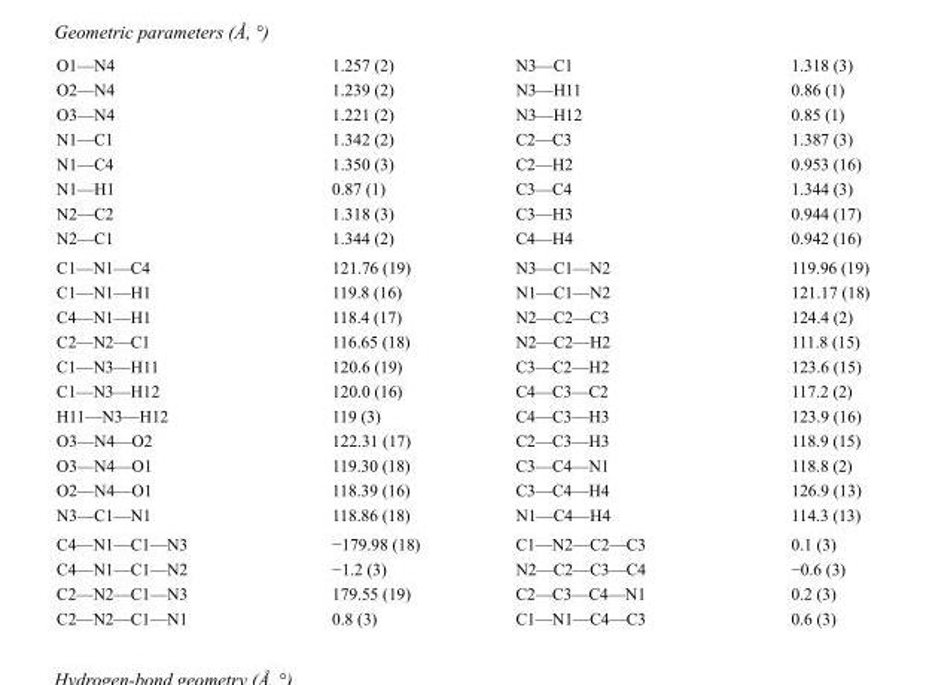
<table><tbody><tr><td>O1—N4</td><td>1.257 (2)</td><td>N3—C1</td><td>1.318 (3)</td></tr><tr><td>O2—N4</td><td>1.239 (2)</td><td>N3—H11</td><td>0.86 (1)</td></tr><tr><td>O3—N4</td><td>1.221 (2)</td><td>N3—H12</td><td>0.85 (1)</td></tr><tr><td>N1—C1</td><td>1.342 (2)</td><td>C2—C3</td><td>1.387 (3)</td></tr><tr><td>N1—C4</td><td>1.350 (3)</td><td>C2—H2</td><td>0.953 (16)</td></tr><tr><td>N1—H1</td><td>0.87 (1)</td><td>C3—C4</td><td>1.344 (3)</td></tr><tr><td>N2—C2</td><td>1.318 (3)</td><td>C3—H3</td><td>0.944 (17)</td></tr><tr><td>N2—C1</td><td>1.344 (2)</td><td>C4—H4</td><td>0.942 (16)</td></tr><tr><td>C1—N1—C4</td><td>121.76 (19)</td><td>N3—C1—N2</td><td>119.96 (19)</td></tr><tr><td>C1—N1—H1</td><td>119.8 (16)</td><td>N1—C1—N2</td><td>121.17 (18)</td></tr><tr><td>C4—N1—H1</td><td>118.4 (17)</td><td>N2—C2—C3</td><td>124.4 (2)</td></tr><tr><td>C2—N2—C1</td><td>116.65 (18)</td><td>N2—C2—H2</td><td>111.8 (15)</td></tr><tr><td>C1—N3—H11</td><td>120.6 (19)</td><td>C3—C2—H2</td><td>123.6 (15)</td></tr><tr><td>C1—N3—H12</td><td>120.0 (16)</td><td>C4—C3—C2</td><td>117.2 (2)</td></tr><tr><td>H11—N3—H12</td><td>119 (3)</td><td>C4—C3—H3</td><td>123.9 (16)</td></tr><tr><td>O3—N4—O2</td><td>122.31 (17)</td><td>C2—C3—H3</td><td>118.9 (15)</td></tr><tr><td>O3—N4—O1</td><td>119.30 (18)</td><td>C3—C4—N1</td><td>118.8 (2)</td></tr><tr><td>O2—N4—O1</td><td>118.39 (16)</td><td>C3—C4—H4</td><td>126.9 (13)</td></tr><tr><td>N3—C1—N1</td><td>118.86 (18)</td><td>N1—C4—H4</td><td>114.3 (13)</td></tr><tr><td>C4—N1—C1—N3</td><td>−179.98 (18)</td><td>C1—N2—C2—C3</td><td>0.1 (3)</td></tr><tr><td>C4—N1—C1—N2</td><td>−1.2 (3)</td><td>N2—C2—C3—C4</td><td>−0.6 (3)</td></tr><tr><td>C2—N2—C1—N3</td><td>179.55 (19)</td><td>C2—C3—C4—N1</td><td>0.2 (3)</td></tr><tr><td>C2—N2—C1—N1</td><td>0.8 (3)</td><td>C1—N1—C4—C3</td><td>0.6 (3)</td></tr></tbody></table>